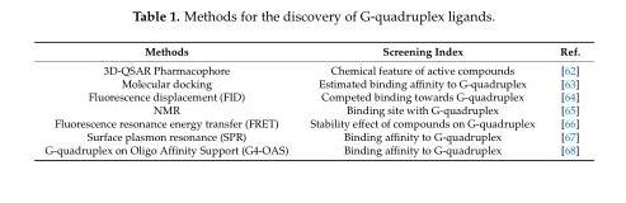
<table><thead><tr><td>Methods</td><td>Screening Index</td><td>Ref.</td></tr></thead><tbody><tr><td>3D-QSAR Pharmacophore</td><td>Chemical feature of active compounds</td><td>[62]</td></tr><tr><td>Molecular docking</td><td>Estimated binding affinity to G-quadruplex</td><td>[63]</td></tr><tr><td>Fluorescence displacement (FID)</td><td>Competed binding towards G-quadruplex</td><td>[64]</td></tr><tr><td>NMR</td><td>Binding site with G-quadruplex</td><td>[65]</td></tr><tr><td>Fluorescence resonance energy transfer (FRET)</td><td>Stability effect of compounds on G-quadruplex</td><td>[66]</td></tr><tr><td>Surface plasmon resonance (SPR)</td><td>Binding affinity to G-quadruplex</td><td>[67]</td></tr><tr><td>G-quadruplex on Oligo Affinity Support (G4-OAS)</td><td>Binding affinity to G-quadruplex</td><td>[68]</td></tr></tbody></table>